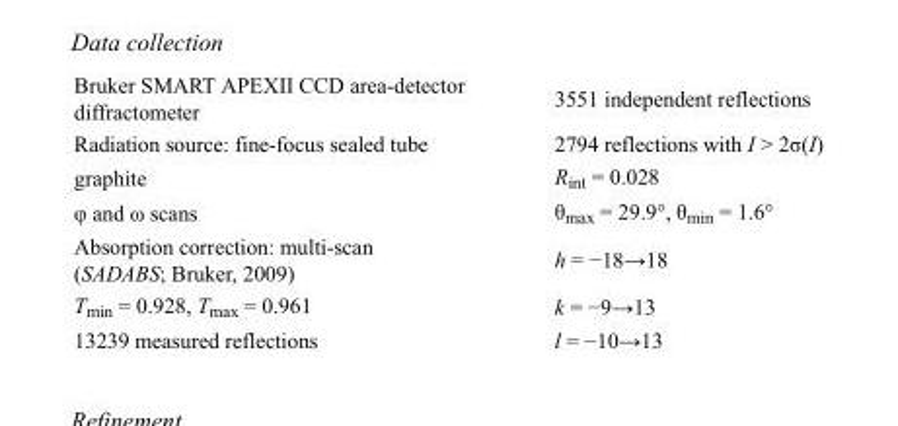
<table><tbody><tr><td>Bruker SMART APEXII CCD area-detector diffractometer</td><td>3551 independent reflections</td></tr><tr><td>Radiation source: fine-focus sealed tube</td><td>2794 reflections with I &gt; 2σ(I)</td></tr><tr><td>graphite</td><td>R<sub>int</sub> = 0.028</td></tr><tr><td>φ and ω scans</td><td>θ<sub>max</sub> = 29.9°, θ<sub>min</sub> = 1.6°</td></tr><tr><td>Absorption correction: multi-scan (SADABS; Bruker, 2009)</td><td>h = −18→18</td></tr><tr><td>T<sub>min</sub> = 0.928, T<sub>max</sub> = 0.961</td><td>k = −9→13</td></tr><tr><td>13239 measured reflections</td><td>l = −10→13</td></tr></tbody></table>